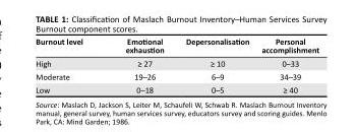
<table><thead><tr><td>Burnout level</td><td>Emotional exhaustion</td><td>Depersonalisation</td><td>Personal accomplishment</td></tr></thead><tbody><tr><td>High</td><td>≥ 27</td><td>≥ 10</td><td>0–33</td></tr><tr><td>Moderate</td><td>19–26</td><td>6–9</td><td>34–39</td></tr><tr><td>Low</td><td>0–18</td><td>0–5</td><td>≥ 40</td></tr></tbody></table>